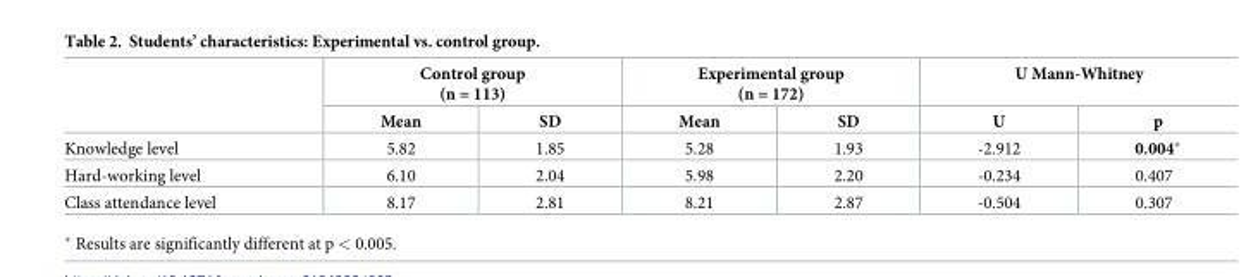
<table><thead><tr><td rowspan="2"></td><td colspan="2">Control group (n = 113)</td><td colspan="2">Experimental group (n = 172)</td><td colspan="2">U Mann-Whitney</td></tr><tr><td>Mean</td><td>SD</td><td>Mean</td><td>SD</td><td>U</td><td>p</td></tr></thead><tbody><tr><td>Knowledge level</td><td>5.82</td><td>1.85</td><td>5.28</td><td>1.93</td><td>-2.912</td><td>0.004*</td></tr><tr><td>Hard-working level</td><td>6.10</td><td>2.04</td><td>5.98</td><td>2.20</td><td>-0.234</td><td>0.407</td></tr><tr><td>Class attendance level</td><td>8.17</td><td>2.81</td><td>8.21</td><td>2.87</td><td>-0.504</td><td>0.307</td></tr></tbody></table>